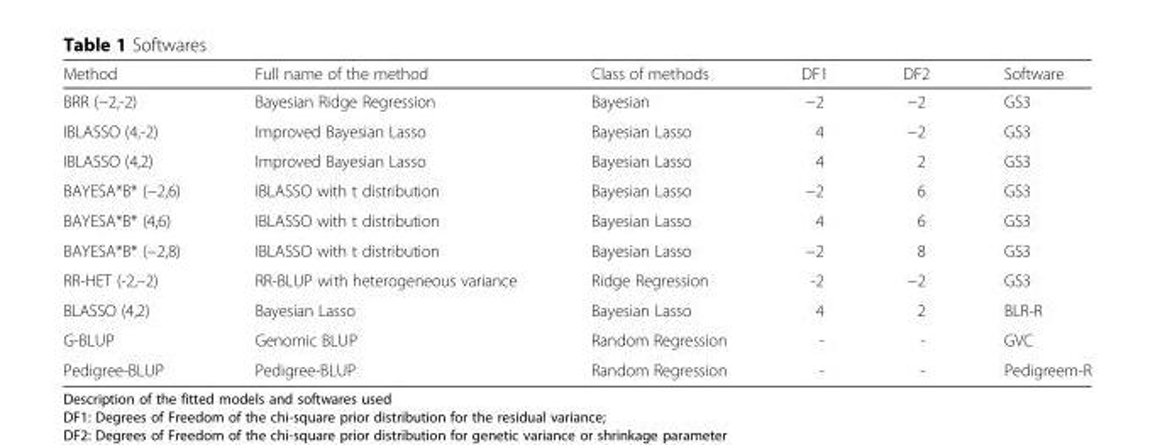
<table><thead><tr><td>Method</td><td>Full name of the method</td><td>Class of methods</td><td>DF1</td><td>DF2</td><td>Software</td></tr></thead><tbody><tr><td>BRR (−2,-2)</td><td>Bayesian Ridge Regression</td><td>Bayesian</td><td>−2</td><td>−2</td><td>GS3</td></tr><tr><td>IBLASSO (4,-2)</td><td>Improved Bayesian Lasso</td><td>Bayesian Lasso</td><td>4</td><td>−2</td><td>GS3</td></tr><tr><td>IBLASSO (4,2)</td><td>Improved Bayesian Lasso</td><td>Bayesian Lasso</td><td>4</td><td>2</td><td>GS3</td></tr><tr><td>BAYESA*B* (−2,6)</td><td>IBLASSO with t distribution</td><td>Bayesian Lasso</td><td>−2</td><td>6</td><td>GS3</td></tr><tr><td>BAYESA*B* (4,6)</td><td>IBLASSO with t distribution</td><td>Bayesian Lasso</td><td>4</td><td>6</td><td>GS3</td></tr><tr><td>BAYESA*B* (−2,8)</td><td>IBLASSO with t distribution</td><td>Bayesian Lasso</td><td>−2</td><td>8</td><td>GS3</td></tr><tr><td>RR-HET (-2,–2)</td><td>RR-BLUP with heterogeneous variance</td><td>Ridge Regression</td><td>-2</td><td>−2</td><td>GS3</td></tr><tr><td>BLASSO (4,2)</td><td>Bayesian Lasso</td><td>Bayesian Lasso</td><td>4</td><td>2</td><td>BLR-R</td></tr><tr><td>G-BLUP</td><td>Genomic BLUP</td><td>Random Regression</td><td>-</td><td>-</td><td>GVC</td></tr><tr><td>Pedigree-BLUP</td><td>Pedigree-BLUP</td><td>Random Regression</td><td>-</td><td>-</td><td>Pedigreem-R</td></tr></tbody></table>